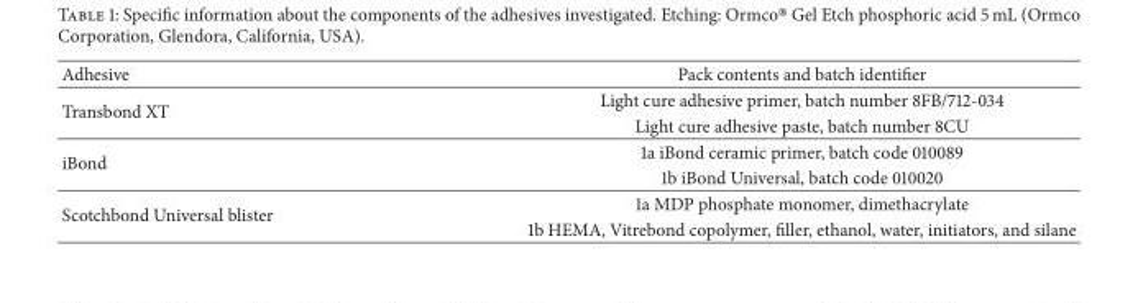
<table><thead><tr><td>Adhesive</td><td>Pack contents and batch identifier</td></tr></thead><tbody><tr><td rowspan="2">Transbond XT</td><td>Light cure adhesive primer, batch number 8FB/712-034</td></tr><tr><td>Light cure adhesive paste, batch number 8CU</td></tr><tr><td rowspan="2">iBond</td><td>1a iBond ceramic primer, batch code 010089</td></tr><tr><td>1b iBond Universal, batch code 010020</td></tr><tr><td rowspan="2">Scotchbond Universal blister</td><td>1a MDP phosphate monomer, dimethacrylate</td></tr><tr><td>1b HEMA, Vitrebond copolymer, filler, ethanol, water, initiators, and silane</td></tr></tbody></table>